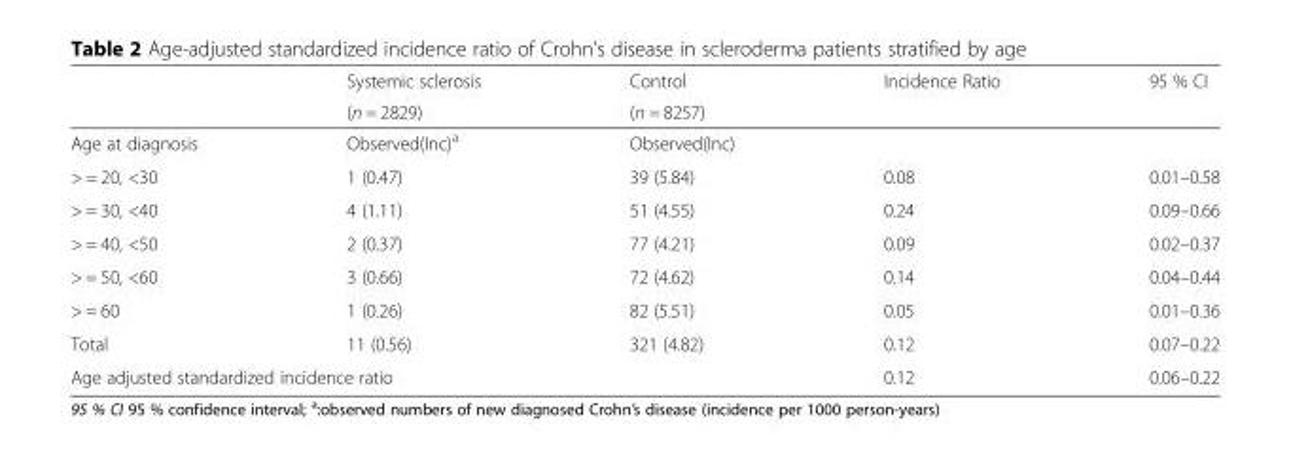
<table><thead><tr><td rowspan="2"></td><td rowspan="2">Systemic sclerosis (n = 2829)</td><td rowspan="2">Control (n = 8257)</td><td rowspan="2">Incidence Ratio</td><td rowspan="2">95 % CI</td></tr><tr></tr></thead><tbody><tr><td>Age at diagnosis</td><td>Observed(Inc)<sup>a</sup></td><td>Observed(Inc)</td><td></td><td></td></tr><tr><td>&gt; = 20, &lt;30</td><td>1 (0.47)</td><td>39 (5.84)</td><td>0.08</td><td>0.01–0.58</td></tr><tr><td>&gt; = 30, &lt;40</td><td>4 (1.11)</td><td>51 (4.55)</td><td>0.24</td><td>0.09–0.66</td></tr><tr><td>&gt; = 40, &lt;50</td><td>2 (0.37)</td><td>77 (4.21)</td><td>0.09</td><td>0.02–0.37</td></tr><tr><td>&gt; = 50, &lt;60</td><td>3 (0.66)</td><td>72 (4.62)</td><td>0.14</td><td>0.04–0.44</td></tr><tr><td>&gt; = 60</td><td>1 (0.26)</td><td>82 (5.51)</td><td>0.05</td><td>0.01–0.36</td></tr><tr><td>Total</td><td>11 (0.56)</td><td>321 (4.82)</td><td>0.12</td><td>0.07–0.22</td></tr><tr><td colspan="3">Age adjusted standardized incidence ratio</td><td>0.12</td><td>0.06–0.22</td></tr></tbody></table>